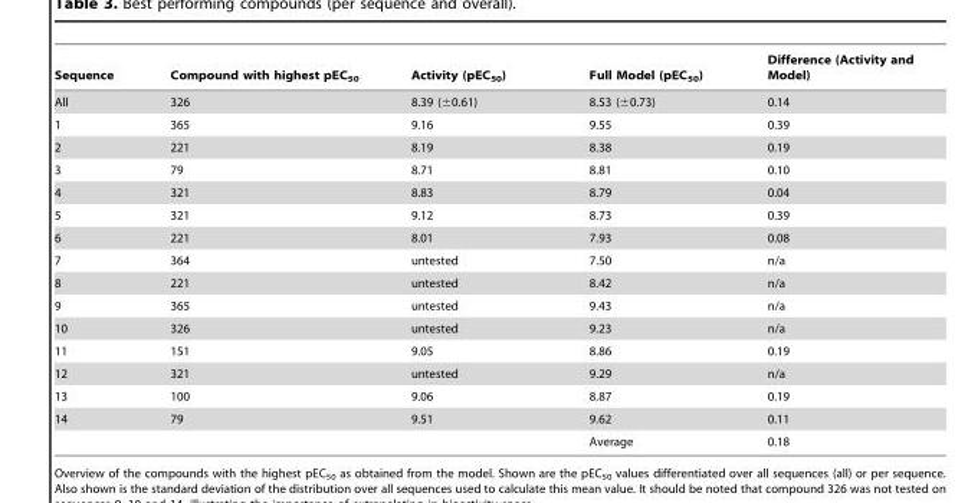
<table><thead><tr><td>Sequence</td><td>Compound with highest pEC<sub>50</sub></td><td>Activity (pEC<sub>50</sub>)</td><td>Full Model (pEC<sub>50</sub>)</td><td>Difference (Activity and Model)</td></tr></thead><tbody><tr><td>All</td><td>326</td><td>8.39 (±0.61)</td><td>8.53 (±0.73)</td><td>0.14</td></tr><tr><td>1</td><td>365</td><td>9.16</td><td>9.55</td><td>0.39</td></tr><tr><td>2</td><td>221</td><td>8.19</td><td>8.38</td><td>0.19</td></tr><tr><td>3</td><td>79</td><td>8.71</td><td>8.81</td><td>0.10</td></tr><tr><td>4</td><td>321</td><td>8.83</td><td>8.79</td><td>0.04</td></tr><tr><td>5</td><td>321</td><td>9.12</td><td>8.73</td><td>0.39</td></tr><tr><td>6</td><td>221</td><td>8.01</td><td>7.93</td><td>0.08</td></tr><tr><td>7</td><td>364</td><td>untested</td><td>7.50</td><td>n/a</td></tr><tr><td>8</td><td>221</td><td>untested</td><td>8.42</td><td>n/a</td></tr><tr><td>9</td><td>365</td><td>untested</td><td>9.43</td><td>n/a</td></tr><tr><td>10</td><td>326</td><td>untested</td><td>9.23</td><td>n/a</td></tr><tr><td>11</td><td>151</td><td>9.05</td><td>8.86</td><td>0.19</td></tr><tr><td>12</td><td>321</td><td>untested</td><td>9.29</td><td>n/a</td></tr><tr><td>13</td><td>100</td><td>9.06</td><td>8.87</td><td>0.19</td></tr><tr><td rowspan="2">14</td><td>79</td><td>9.51</td><td>9.62</td><td>0.11</td></tr><tr><td></td><td></td><td>Average</td><td>0.18</td></tr></tbody></table>